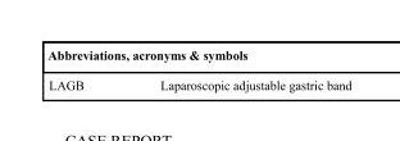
<table><thead><tr><td colspan="2">Abbreviations, acronyms &amp; symbols</td></tr><tr><td>LAGB</td><td>Laparoscopic adjustable gastric band</td></tr></thead><tbody></tbody></table>